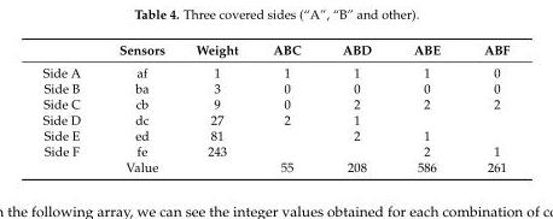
<table><thead><tr><td></td><td>Sensors</td><td>Weight</td><td>ABC</td><td>ABD</td><td>ABE</td><td>ABF</td></tr></thead><tbody><tr><td>Side A</td><td>af</td><td>1</td><td>1</td><td>1</td><td>1</td><td>0</td></tr><tr><td>Side B</td><td>ba</td><td>3</td><td>0</td><td>0</td><td>0</td><td>0</td></tr><tr><td>Side C</td><td>cb</td><td>9</td><td>0</td><td>2</td><td>2</td><td>2</td></tr><tr><td>Side D</td><td>dc</td><td>27</td><td>2</td><td>1</td><td></td><td></td></tr><tr><td>Side E</td><td>ed</td><td>81</td><td></td><td>2</td><td>1</td><td></td></tr><tr><td rowspan="2">Side F</td><td>fe</td><td>243</td><td></td><td></td><td>2</td><td>1</td></tr><tr><td>Value</td><td></td><td>55</td><td>208</td><td>586</td><td>261</td></tr></tbody></table>